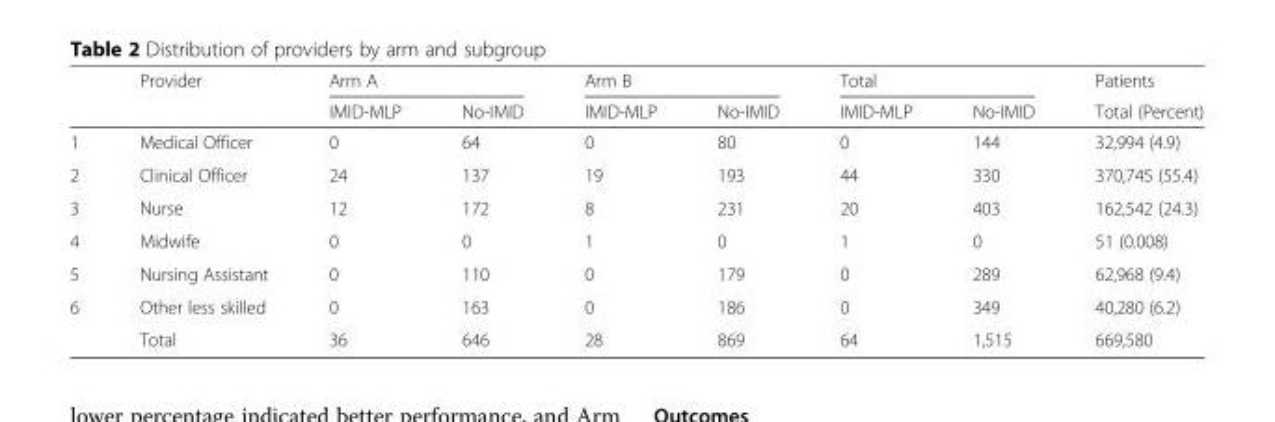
<table><thead><tr><td rowspan="2"></td><td rowspan="2">Provider</td><td colspan="2">Arm A</td><td colspan="2">Arm B</td><td colspan="2">Total</td><td rowspan="2">Patients Total (Percent)</td></tr><tr><td>IMID-MLP</td><td>No-IMID</td><td>IMID-MLP</td><td>No-IMID</td><td>IMID-MLP</td><td>No-IMID</td></tr></thead><tbody><tr><td>1</td><td>Medical Officer</td><td>0</td><td>64</td><td>0</td><td>80</td><td>0</td><td>144</td><td>32,994 (4.9)</td></tr><tr><td>2</td><td>Clinical Officer</td><td>24</td><td>137</td><td>19</td><td>193</td><td>44</td><td>330</td><td>370,745 (55.4)</td></tr><tr><td>3</td><td>Nurse</td><td>12</td><td>172</td><td>8</td><td>231</td><td>20</td><td>403</td><td>162,542 (24.3)</td></tr><tr><td>4</td><td>Midwife</td><td>0</td><td>0</td><td>1</td><td>0</td><td>1</td><td>0</td><td>51 (0.008)</td></tr><tr><td>5</td><td>Nursing Assistant</td><td>0</td><td>110</td><td>0</td><td>179</td><td>0</td><td>289</td><td>62,968 (9.4)</td></tr><tr><td rowspan="2">6</td><td>Other less skilled</td><td>0</td><td>163</td><td>0</td><td>186</td><td>0</td><td>349</td><td>40,280 (6.2)</td></tr><tr><td>Total</td><td>36</td><td>646</td><td>28</td><td>869</td><td>64</td><td>1,515</td><td>669,580</td></tr></tbody></table>